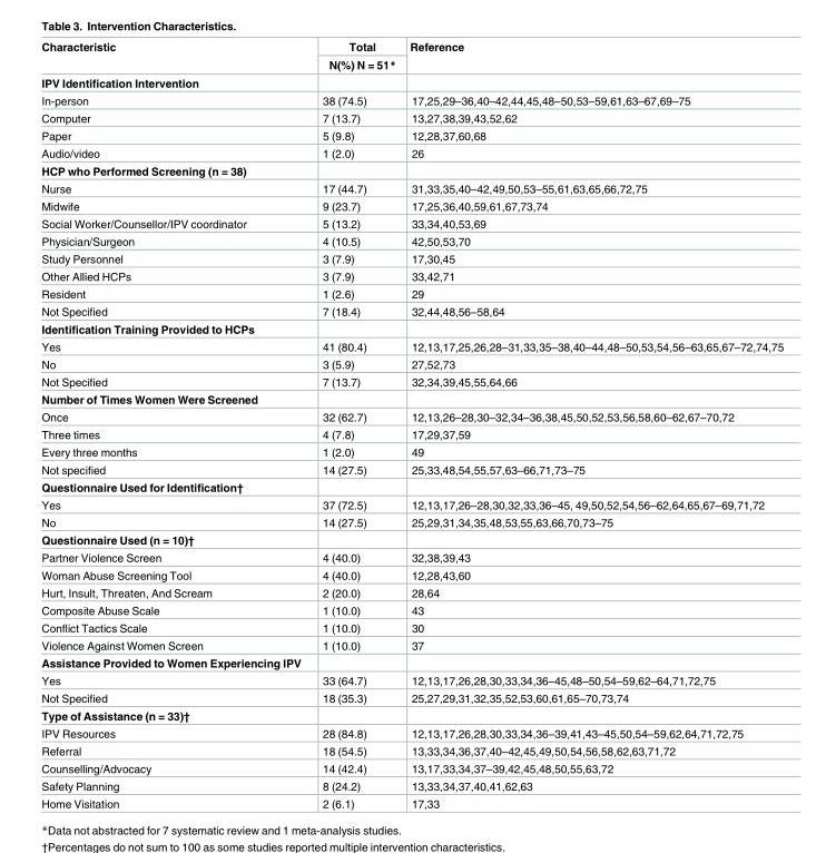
<table><thead><tr><td rowspan="2">Characteristic</td><td rowspan="2">Total N(%) N = 51*</td><td rowspan="2">Reference</td></tr><tr></tr></thead><tbody><tr><td colspan="3">IPV Identification Intervention</td></tr><tr><td>In-person</td><td>38 (74.5)</td><td>17,25,29–36,40–42,44,45,48–50,53–59,61,63–67,69–75</td></tr><tr><td>Computer</td><td>7 (13.7)</td><td>13,27,38,39,43,52,62</td></tr><tr><td>Paper</td><td>5 (9.8)</td><td>12,28,37,60,68</td></tr><tr><td>Audio/video</td><td>1 (2.0)</td><td>26</td></tr><tr><td colspan="3">HCP who Performed Screening (n = 38)</td></tr><tr><td>Nurse</td><td>17 (44.7)</td><td>31,33,35,40–42,49,50,53–55,61,63,65,66,72,75</td></tr><tr><td>Midwife</td><td>9 (23.7)</td><td>17,25,36,40,59,61,67,73,74</td></tr><tr><td>Social Worker/Counsellor/IPV coordinator</td><td>5 (13.2)</td><td>33,34,40,53,69</td></tr><tr><td>Physician/Surgeon</td><td>4 (10.5)</td><td>42,50,53,70</td></tr><tr><td>Study Personnel</td><td>3 (7.9)</td><td>17,30,45</td></tr><tr><td>Other Allied HCPs</td><td>3 (7.9)</td><td>33,42,71</td></tr><tr><td>Resident</td><td>1 (2.6)</td><td>29</td></tr><tr><td>Not Specified</td><td>7 (18.4)</td><td>32,44,48,56–58,64</td></tr><tr><td colspan="3">Identification Training Provided to HCPs</td></tr><tr><td>Yes</td><td>41 (80.4)</td><td>12,13,17,25,26,28–31,33,35–38,40–44,48–50,53,54,56–63,65,67–72,74,75</td></tr><tr><td>No</td><td>3 (5.9)</td><td>27,52,73</td></tr><tr><td>Not Specified</td><td>7 (13.7)</td><td>32,34,39,45,55,64,66</td></tr><tr><td colspan="3">Number of Times Women Were Screened</td></tr><tr><td>Once</td><td>32 (62.7)</td><td>12,13,26–28,30–32,34–36,38,45,50,52,53,56,58,60–62,67–70,72</td></tr><tr><td>Three times</td><td>4 (7.8)</td><td>17,29,37,59</td></tr><tr><td>Every three months</td><td>1 (2.0)</td><td>49</td></tr><tr><td>Not specified</td><td>14 (27.5)</td><td>25,33,48,54,55,57,63–66,71,73–75</td></tr><tr><td colspan="3">Questionnaire Used for Identification†</td></tr><tr><td>Yes</td><td>37 (72.5)</td><td>12,13,17,26–28,30,32,33,36–45, 49,50,52,54,56–62,64,65,67–69,71,72</td></tr><tr><td>No</td><td>14 (27.5)</td><td>25,29,31,34,35,48,53,55,63,66,70,73–75</td></tr><tr><td colspan="3">Questionnaire Used (n = 10)†</td></tr><tr><td>Partner Violence Screen</td><td>4 (40.0)</td><td>32,38,39,43</td></tr><tr><td>Woman Abuse Screening Tool</td><td>4 (40.0)</td><td>12,28,43,60</td></tr><tr><td>Hurt, Insult, Threaten, And Scream</td><td>2 (20.0)</td><td>28,64</td></tr><tr><td>Composite Abuse Scale</td><td>1 (10.0)</td><td>43</td></tr><tr><td>Conflict Tactics Scale</td><td>1 (10.0)</td><td>30</td></tr><tr><td>Violence Against Women Screen</td><td>1 (10.0)</td><td>37</td></tr><tr><td colspan="3">Assistance Provided to Women Experiencing IPV</td></tr><tr><td>Yes</td><td>33 (64.7)</td><td>12,13,17,26,28,30,33,34,36–45,48–50,54–59,62–64,71,72,75</td></tr><tr><td>Not Specified</td><td>18 (35.3)</td><td>25,27,29,31,32,35,52,53,60,61,65–70,73,74</td></tr><tr><td colspan="3">Type of Assistance (n = 33)†</td></tr><tr><td>IPV Resources</td><td>28 (84.8)</td><td>12,13,17,26,28,30,33,34,36–39,41,43–45,50,54–59,62,64,71,72,75</td></tr><tr><td>Referral</td><td>18 (54.5)</td><td>13,33,34,36,37,40–42,45,49,50,54,56,58,62,63,71,72</td></tr><tr><td>Counselling/Advocacy</td><td>14 (42.4)</td><td>13,17,33,34,37–39,42,45,48,50,55,63,72</td></tr><tr><td>Safety Planning</td><td>8 (24.2)</td><td>13,33,34,37,40,41,62,63</td></tr><tr><td>Home Visitation</td><td>2 (6.1)</td><td>17,33</td></tr></tbody></table>